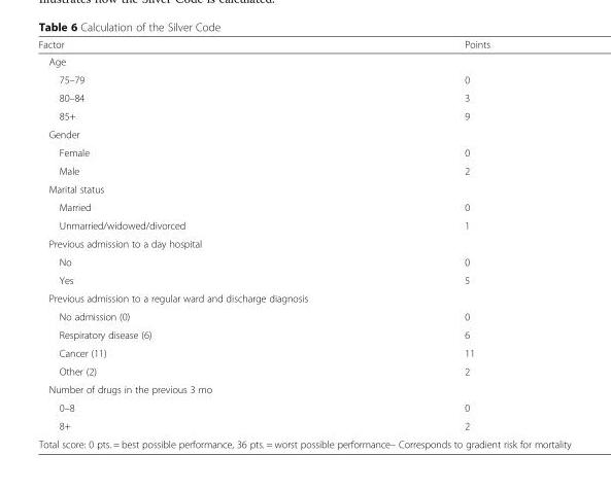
<table><thead><tr><td>Factor</td><td>Points</td></tr></thead><tbody><tr><td colspan="2">Age</td></tr><tr><td>75–79</td><td>0</td></tr><tr><td>80–84</td><td>3</td></tr><tr><td>85+</td><td>9</td></tr><tr><td colspan="2">Gender</td></tr><tr><td>Female</td><td>0</td></tr><tr><td>Male</td><td>2</td></tr><tr><td colspan="2">Marital status</td></tr><tr><td>Married</td><td>0</td></tr><tr><td>Unmarried/widowed/divorced</td><td>1</td></tr><tr><td colspan="2">Previous admission to a day hospital</td></tr><tr><td>No</td><td>0</td></tr><tr><td>Yes</td><td>5</td></tr><tr><td colspan="2">Previous admission to a regular ward and discharge diagnosis</td></tr><tr><td>No admission (0)</td><td>0</td></tr><tr><td>Respiratory disease (6)</td><td>6</td></tr><tr><td>Cancer (11)</td><td>11</td></tr><tr><td>Other (2)</td><td>2</td></tr><tr><td colspan="2">Number of drugs in the previous 3 mo</td></tr><tr><td>0–8</td><td>0</td></tr><tr><td>8+</td><td>2</td></tr><tr><td colspan="2">Total score: 0 pts. = best possible performance, 36 pts. = worst possible performance– Corresponds to gradient risk for mortality</td></tr></tbody></table>